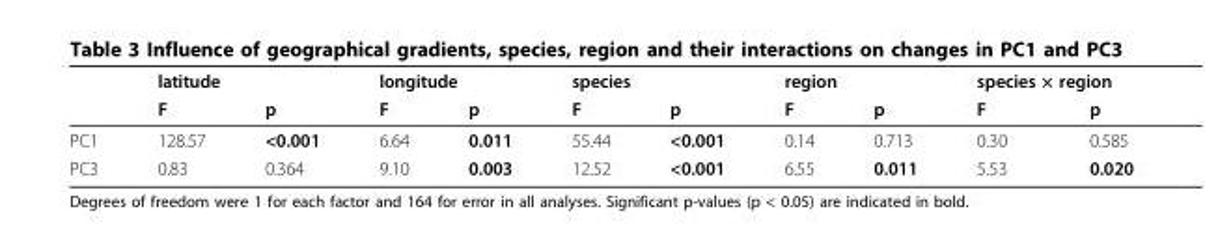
<table><thead><tr><td rowspan="2"></td><td colspan="2">latitude</td><td colspan="2">longitude</td><td colspan="2">species</td><td colspan="2">region</td><td colspan="2">species × region</td></tr><tr><td>F</td><td>p</td><td>F</td><td>p</td><td>F</td><td>p</td><td>F</td><td>p</td><td>F</td><td>p</td></tr></thead><tbody><tr><td>PC1</td><td>128.57</td><td>&lt;0.001</td><td>6.64</td><td>0.011</td><td>55.44</td><td>&lt;0.001</td><td>0.14</td><td>0.713</td><td>0.30</td><td>0.585</td></tr><tr><td>PC3</td><td>0.83</td><td>0.364</td><td>9.10</td><td>0.003</td><td>12.52</td><td>&lt;0.001</td><td>6.55</td><td>0.011</td><td>5.53</td><td>0.020</td></tr></tbody></table>